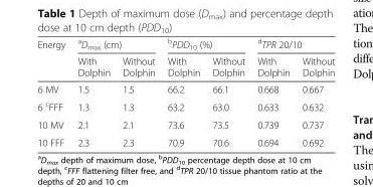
<table><thead><tr><td rowspan="2">Energy</td><td colspan="2"><sup>a</sup>D<sub>max</sub> (cm)</td><td colspan="2"><sup>b</sup>PDD<sub>10</sub> (%)</td><td colspan="2"><sup>d</sup>TPR 20/10</td></tr><tr><td>With Dolphin</td><td>Without Dolphin</td><td>With Dolphin</td><td>Without Dolphin</td><td>With Dolphin</td><td>Without Dolphin</td></tr></thead><tbody><tr><td>6 MV</td><td>1.5</td><td>1.5</td><td>66.2</td><td>66.1</td><td>0.668</td><td>0.667</td></tr><tr><td>6 <sup>c</sup>FFF</td><td>1.3</td><td>1.3</td><td>63.2</td><td>63.0</td><td>0.633</td><td>0.632</td></tr><tr><td>10 MV</td><td>2.1</td><td>2.1</td><td>73.6</td><td>73.5</td><td>0.739</td><td>0.737</td></tr><tr><td>10 FFF</td><td>2.3</td><td>2.3</td><td>70.9</td><td>70.6</td><td>0.694</td><td>0.692</td></tr></tbody></table>